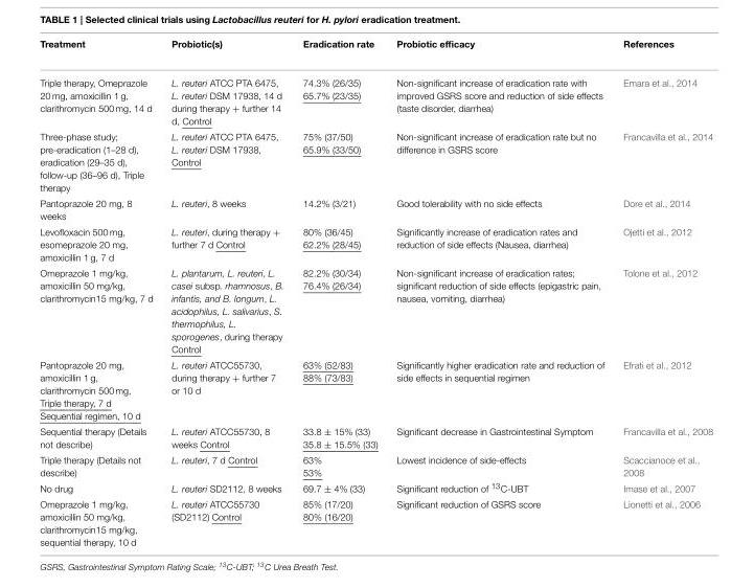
<table><thead><tr><td>Treatment</td><td>Probiotic(s)</td><td>Eradication rate</td><td>Probiotic efficacy</td><td>References</td></tr></thead><tbody><tr><td>Triple therapy, Omeprazole 20 mg, amoxicillin 1 g, clarithromycin 500 mg, 14 d</td><td>L. reuteri ATCC PTA 6475, L. reuteri DSM 17938, 14 d during therapy + further 14 d, Control</td><td>74.3% (26/35) 65.7% (23/35)</td><td>Non-significant increase of eradication rate with improved GSRS score and reduction of side effects (taste disorder, diarrhea)</td><td>Emara et al., 2014</td></tr><tr><td>Three-phase study; pre-eradication (1–28 d), eradication (29–35 d), follow-up (36–96 d), Triple therapy</td><td>L. reuteri ATCC PTA 6475, L. reuteri DSM 17938, Control</td><td>75% (37/50) 65.9% (33/50)</td><td>Non-significant increase of eradication rate but no difference in GSRS score</td><td>Francavilla et al., 2014</td></tr><tr><td>Pantoprazole 20 mg, 8 weeks</td><td>L. reuteri, 8 weeks</td><td>14.2% (3/21)</td><td>Good tolerability with no side effects</td><td>Dore et al., 2014</td></tr><tr><td>Levofloxacin 500 mg, esomeprazole 20 mg, amoxicillin 1 g, 7 d</td><td>L. reuteri, during therapy + further 7 d Control</td><td>80% (36/45) 62.2% (28/45)</td><td>Significantly increase of eradication rates and reduction of side effects (Nausea, diarrhea)</td><td>Ojetti et al., 2012</td></tr><tr><td>Omeprazole 1 mg/kg, amoxicillin 50 mg/kg, clarithromycin15 mg/kg, 7 d</td><td>L. plantarum, L. reuteri, L. casei subsp. rhamnosus, B. infantis, and B. longum, L. acidophilus, L. salivarius, S. thermophilus, L. sporogenes, during therapy Control</td><td>82.2% (30/34) 76.4% (26/34)</td><td>Non-significant increase of eradication rates; significant reduction of side effects (epigastric pain, nausea, vomiting, diarrhea)</td><td>Tolone et al., 2012</td></tr><tr><td>Pantoprazole 20 mg, amoxicillin 1 g, clarithromycin 500 mg, Triple therapy, 7 d Sequential regimen, 10 d</td><td>L. reuteri ATCC55730, during therapy + further 7 or 10 d</td><td>63% (52/83) 88% (73/83)</td><td>Significantly higher eradication rate and reduction of side effects in sequential regimen</td><td>Efrati et al., 2012</td></tr><tr><td>Sequential therapy (Details not describe)</td><td>L. reuteri ATCC55730, 8 weeks Control</td><td>33.8 ± 15% (33) 35.8 ± 15.5% (33)</td><td>Significant decrease in Gastrointestinal Symptom</td><td>Francavilla et al., 2008</td></tr><tr><td>Triple therapy (Details not describe)</td><td>L. reuteri, 7 d Control</td><td>63% 53%</td><td>Lowest incidence of side-effects</td><td>Scaccianoce et al., 2008</td></tr><tr><td>No drug</td><td>L. reuteri SD2112, 8 weeks</td><td>69.7 ± 4% (33)</td><td>Significant reduction of <sup>13</sup>C-UBT</td><td>Imase et al., 2007</td></tr><tr><td>Omeprazole 1 mg/kg, amoxicillin 50 mg/kg, clarithromycin15 mg/kg, sequential therapy, 10 d</td><td>L. reuteri ATCC55730 (SD2112) Control</td><td>85% (17/20) 80% (16/20)</td><td>Significant reduction of GSRS score</td><td>Lionetti et al., 2006</td></tr></tbody></table>